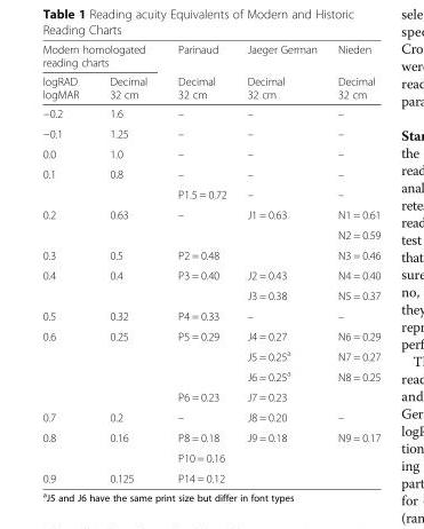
<table><thead><tr><td colspan="2">Modern homologated reading charts</td><td rowspan="2">Parinaud Decimal 32 cm</td><td rowspan="2">Jaeger German Decimal 32 cm</td><td rowspan="2">Nieden Decimal 32 cm</td></tr><tr><td>logRAD logMAR</td><td>Decimal 32 cm</td></tr></thead><tbody><tr><td>−0.2</td><td>1.6</td><td>–</td><td>–</td><td>–</td></tr><tr><td>−0.1</td><td>1.25</td><td>–</td><td>–</td><td>–</td></tr><tr><td>0.0</td><td>1.0</td><td>–</td><td>–</td><td>–</td></tr><tr><td rowspan="2">0.1</td><td rowspan="2">0.8</td><td>–</td><td>–</td><td>–</td></tr><tr><td>P1.5 = 0.72</td><td>–</td><td>–</td></tr><tr><td rowspan="2">0.2</td><td rowspan="2">0.63</td><td rowspan="2">–</td><td rowspan="2">J1 = 0.63</td><td>N1 = 0.61</td></tr><tr><td>N2 = 0.59</td></tr><tr><td>0.3</td><td>0.5</td><td>P2 = 0.48</td><td></td><td>N3 = 0.46</td></tr><tr><td rowspan="2">0.4</td><td rowspan="2">0.4</td><td rowspan="2">P3 = 0.40</td><td>J2 = 0.43</td><td>N4 = 0.40</td></tr><tr><td>J3 = 0.38</td><td>N5 = 0.37</td></tr><tr><td>0.5</td><td>0.32</td><td>P4 = 0.33</td><td>–</td><td>–</td></tr><tr><td rowspan="4">0.6</td><td rowspan="4">0.25</td><td>P5 = 0.29</td><td>J4 = 0.27</td><td>N6 = 0.29</td></tr><tr><td></td><td>J5 = 0.25<sup>a</sup></td><td>N7 = 0.27</td></tr><tr><td></td><td>J6 = 0.25<sup>a</sup></td><td>N8 = 0.25</td></tr><tr><td>P6 = 0.23</td><td>J7 = 0.23</td><td></td></tr><tr><td>0.7</td><td>0.2</td><td>–</td><td>J8 = 0.20</td><td>–</td></tr><tr><td rowspan="2">0.8</td><td rowspan="2">0.16</td><td>P8 = 0.18</td><td>J9 = 0.18</td><td>N9 = 0.17</td></tr><tr><td>P10 = 0.16</td><td></td><td></td></tr><tr><td>0.9</td><td>0.125</td><td>P14 = 0.12</td><td></td><td></td></tr></tbody></table>